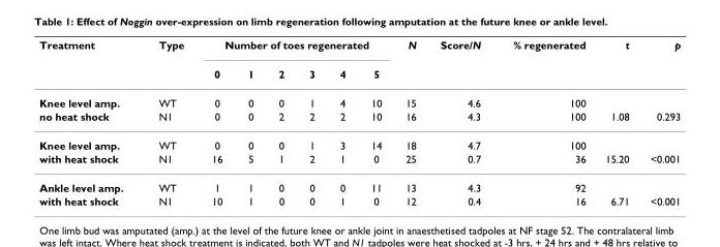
<table><thead><tr><td rowspan="2">Treatment</td><td rowspan="2">Type</td><td colspan="6">Number of toes regenerated</td><td rowspan="2">N</td><td rowspan="2">Score/N</td><td rowspan="2">% regenerated</td><td rowspan="2">t</td><td rowspan="2">p</td></tr><tr><td>0</td><td>1</td><td>2</td><td>3</td><td>4</td><td>5</td></tr></thead><tbody><tr><td>Knee level amp.</td><td>WT</td><td>0</td><td>0</td><td>0</td><td>1</td><td>4</td><td>10</td><td>15</td><td>4.6</td><td>100</td><td></td><td></td></tr><tr><td>no heat shock</td><td>N1</td><td>0</td><td>0</td><td>2</td><td>2</td><td>2</td><td>10</td><td>16</td><td>4.3</td><td>100</td><td>1.08</td><td>0.293</td></tr><tr><td>Knee level amp.</td><td>WT</td><td>0</td><td>0</td><td>0</td><td>1</td><td>3</td><td>14</td><td>18</td><td>4.7</td><td>100</td><td></td><td></td></tr><tr><td>with heat shock</td><td>N1</td><td>16</td><td>5</td><td>1</td><td>2</td><td>1</td><td>0</td><td>25</td><td>0.7</td><td>36</td><td>15.20</td><td>&lt;0.001</td></tr><tr><td>Ankle level amp.</td><td>WT</td><td>1</td><td>1</td><td>0</td><td>0</td><td>0</td><td>11</td><td>13</td><td>4.3</td><td>92</td><td></td><td></td></tr><tr><td>with heat shock</td><td>N1</td><td>10</td><td>1</td><td>0</td><td>0</td><td>1</td><td>0</td><td>12</td><td>0.4</td><td>16</td><td>6.71</td><td>&lt;0.001</td></tr></tbody></table>